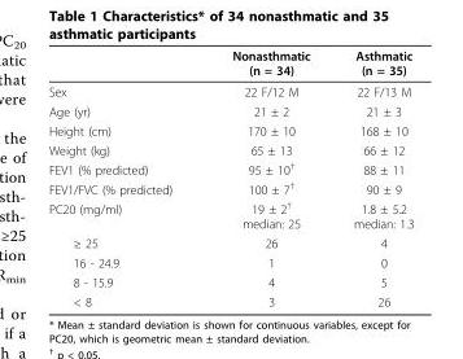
<table><thead><tr><td></td><td>Nonasthmatic (n = 34)</td><td>Asthmatic (n = 35)</td></tr></thead><tbody><tr><td>Sex</td><td>22 F/12 M</td><td>22 F/13 M</td></tr><tr><td>Age (yr)</td><td>21 ± 2</td><td>21 ± 3</td></tr><tr><td>Height (cm)</td><td>170 ± 10</td><td>168 ± 10</td></tr><tr><td>Weight (kg)</td><td>65 ± 13</td><td>66 ± 12</td></tr><tr><td>FEV1 (% predicted)</td><td>95 ± 10<sup>†</sup></td><td>88 ± 11</td></tr><tr><td>FEV1/FVC (% predicted)</td><td>100 ± 7<sup>†</sup></td><td>90 ± 9</td></tr><tr><td>PC20 (mg/ml)</td><td>19 ± 2<sup>†</sup> median: 25</td><td>1.8 ± 5.2 median: 1.3</td></tr><tr><td>≥ 25</td><td>26</td><td>4</td></tr><tr><td>16 - 24.9</td><td>1</td><td>0</td></tr><tr><td>8 - 15.9</td><td>4</td><td>5</td></tr><tr><td>&lt; 8</td><td>3</td><td>26</td></tr></tbody></table>